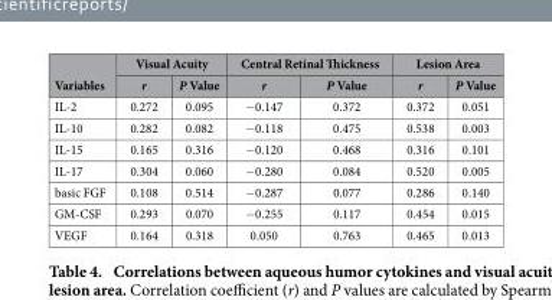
<table><thead><tr><td rowspan="2">Variables</td><td colspan="2">Visual Acuity</td><td colspan="2">Central Retinal Thickness</td><td colspan="2">Lesion Area</td></tr><tr><td>r</td><td>P Value</td><td>r</td><td>P Value</td><td>r</td><td>P Value</td></tr></thead><tbody><tr><td>IL-2</td><td>0.272</td><td>0.095</td><td>− 0.147</td><td>0.372</td><td>0.372</td><td>0.051</td></tr><tr><td>IL-10</td><td>0.282</td><td>0.082</td><td>− 0.118</td><td>0.475</td><td>0.538</td><td>0.003</td></tr><tr><td>IL-15</td><td>0.165</td><td>0.316</td><td>− 0.120</td><td>0.468</td><td>0.316</td><td>0.101</td></tr><tr><td>IL-17</td><td>0.304</td><td>0.060</td><td>− 0.280</td><td>0.084</td><td>0.520</td><td>0.005</td></tr><tr><td>basic FGF</td><td>0.108</td><td>0.514</td><td>− 0.287</td><td>0.077</td><td>0.286</td><td>0.140</td></tr><tr><td>GM-CSF</td><td>0.293</td><td>0.070</td><td>− 0.255</td><td>0.117</td><td>0.454</td><td>0.015</td></tr><tr><td>VEGF</td><td>0.164</td><td>0.318</td><td>0.050</td><td>0.763</td><td>0.465</td><td>0.013</td></tr></tbody></table>